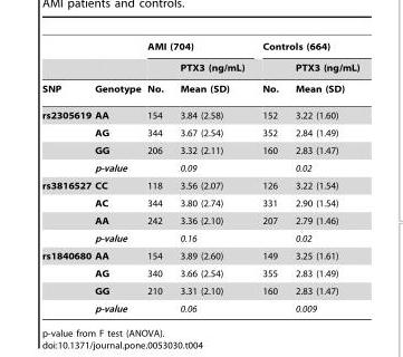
<table><thead><tr><td rowspan="2"></td><td rowspan="2"></td><td colspan="2">AMI (704)</td><td colspan="2">Controls (664)</td></tr><tr><td></td><td>PTX3 (ng/mL)</td><td></td><td>PTX3 (ng/mL)</td></tr></thead><tbody><tr><td>SNP</td><td>Genotype</td><td>No.</td><td>Mean (SD)</td><td>No.</td><td>Mean (SD)</td></tr><tr><td rowspan="4">rs2305619</td><td>AA</td><td>154</td><td>3.84 (2.58)</td><td>152</td><td>3.22 (1.60)</td></tr><tr><td>AG</td><td>344</td><td>3.67 (2.54)</td><td>352</td><td>2.84 (1.49)</td></tr><tr><td>GG</td><td>206</td><td>3.32 (2.11)</td><td>160</td><td>2.83 (1.47)</td></tr><tr><td>p-value</td><td></td><td>0.09</td><td></td><td>0.02</td></tr><tr><td rowspan="4">rs3816527</td><td>CC</td><td>118</td><td>3.56 (2.07)</td><td>126</td><td>3.22 (1.54)</td></tr><tr><td>AC</td><td>344</td><td>3.80 (2.74)</td><td>331</td><td>2.90 (1.54)</td></tr><tr><td>AA</td><td>242</td><td>3.36 (2.10)</td><td>207</td><td>2.79 (1.46)</td></tr><tr><td>p-value</td><td></td><td>0.16</td><td></td><td>0.02</td></tr><tr><td rowspan="4">rs1840680</td><td>AA</td><td>154</td><td>3.89 (2.60)</td><td>149</td><td>3.25 (1.61)</td></tr><tr><td>AG</td><td>340</td><td>3.66 (2.54)</td><td>355</td><td>2.83 (1.49)</td></tr><tr><td>GG</td><td>210</td><td>3.31 (2.10)</td><td>160</td><td>2.83 (1.47)</td></tr><tr><td>p-value</td><td></td><td>0.06</td><td></td><td>0.009</td></tr></tbody></table>